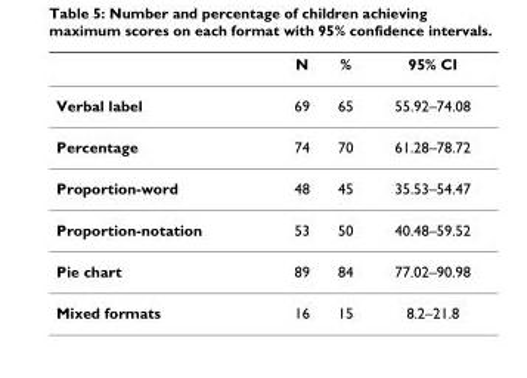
<table><thead><tr><td></td><td>N</td><td>%</td><td>95% CI</td></tr></thead><tbody><tr><td>Verbal label</td><td>69</td><td>65</td><td>55.92–74.08</td></tr><tr><td>Percentage</td><td>74</td><td>70</td><td>61.28–78.72</td></tr><tr><td>Proportion-word</td><td>48</td><td>45</td><td>35.53–54.47</td></tr><tr><td>Proportion-notation</td><td>53</td><td>50</td><td>40.48–59.52</td></tr><tr><td>Pie chart</td><td>89</td><td>84</td><td>77.02–90.98</td></tr><tr><td>Mixed formats</td><td>16</td><td>15</td><td>8.2–21.8</td></tr></tbody></table>